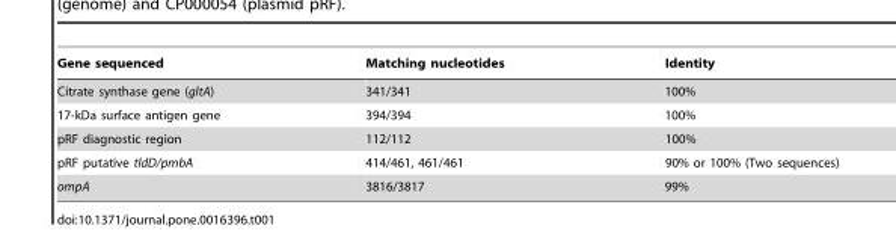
<table><thead><tr><td>Gene sequenced</td><td>Matching nucleotides</td><td>Identity</td></tr></thead><tbody><tr><td>Citrate synthase gene (gltA)</td><td>341/341</td><td>100%</td></tr><tr><td>17-kDa surface antigen gene</td><td>394/394</td><td>100%</td></tr><tr><td>pRF diagnostic region</td><td>112/112</td><td>100%</td></tr><tr><td>pRF putative tldD/pmbA</td><td>414/461, 461/461</td><td>90% or 100% (Two sequences)</td></tr><tr><td>ompA</td><td>3816/3817</td><td>99%</td></tr></tbody></table>